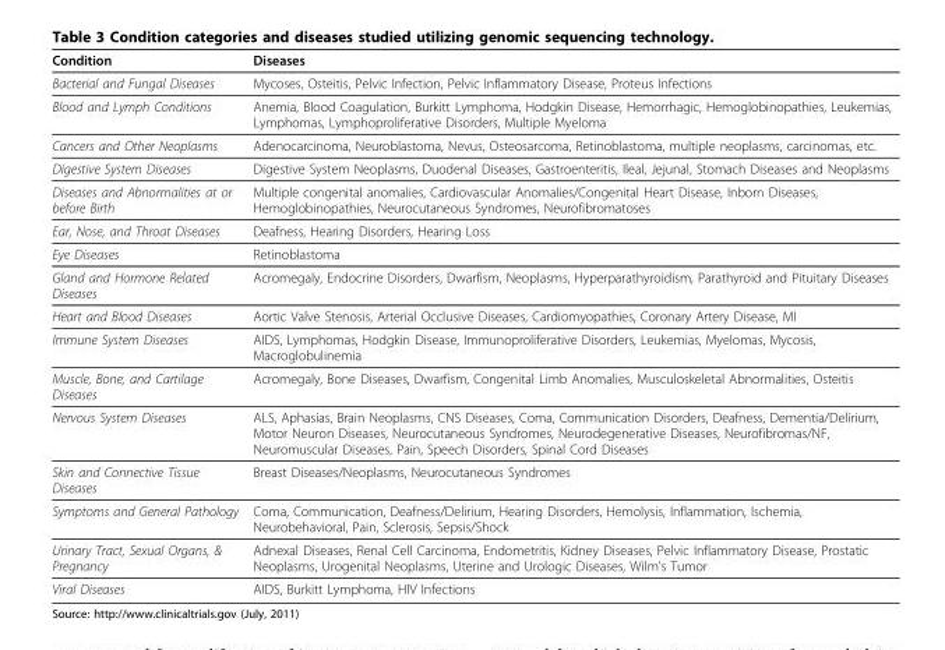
<table><thead><tr><td>Condition</td><td>Diseases</td></tr></thead><tbody><tr><td>Bacterial and Fungal Diseases</td><td>Mycoses, Osteitis, Pelvic Infection, Pelvic Inflammatory Disease, Proteus Infections</td></tr><tr><td>Blood and Lymph Conditions</td><td>Anemia, Blood Coagulation, Burkitt Lymphoma, Hodgkin Disease, Hemorrhagic, Hemoglobinopathies, Leukemias, Lymphomas, Lymphoproliferative Disorders, Multiple Myeloma</td></tr><tr><td>Cancers and Other Neoplasms</td><td>Adenocarcinoma, Neuroblastoma, Nevus, Osteosarcoma, Retinoblastoma, multiple neoplasms, carcinomas, etc.</td></tr><tr><td>Digestive System Diseases</td><td>Digestive System Neoplasms, Duodenal Diseases, Gastroenteritis, Ileal, Jejunal, Stomach Diseases and Neoplasms</td></tr><tr><td>Diseases and Abnormalities at or before Birth</td><td>Multiple congenital anomalies, Cardiovascular Anomalies/Congenital Heart Disease, Inborn Diseases, Hemoglobinopathies, Neurocutaneous Syndromes, Neurofibromatoses</td></tr><tr><td>Ear, Nose, and Throat Diseases</td><td>Deafness, Hearing Disorders, Hearing Loss</td></tr><tr><td>Eye Diseases</td><td>Retinoblastoma</td></tr><tr><td>Gland and Hormone Related Diseases</td><td>Acromegaly, Endocrine Disorders, Dwarfism, Neoplasms, Hyperparathyroidism, Parathyroid and Pituitary Diseases</td></tr><tr><td>Heart and Blood Diseases</td><td>Aortic Valve Stenosis, Arterial Occlusive Diseases, Cardiomyopathies, Coronary Artery Disease, MI</td></tr><tr><td>Immune System Diseases</td><td>AIDS, Lymphomas, Hodgkin Disease, Immunoproliferative Disorders, Leukemias, Myelomas, Mycosis, Macroglobulinemia</td></tr><tr><td>Muscle, Bone, and Cartilage Diseases</td><td>Acromegaly, Bone Diseases, Dwarfism, Congenital Limb Anomalies, Musculoskeletal Abnormalities, Osteitis</td></tr><tr><td>Nervous System Diseases</td><td>ALS, Aphasias, Brain Neoplasms, CNS Diseases, Coma, Communication Disorders, Deafness, Dementia/Delirium, Motor Neuron Diseases, Neurocutaneous Syndromes, Neurodegenerative Diseases, Neurofibromas/NF, Neuromuscular Diseases, Pain, Speech Disorders, Spinal Cord Diseases</td></tr><tr><td>Skin and Connective Tissue Diseases</td><td>Breast Diseases/Neoplasms, Neurocutaneous Syndromes</td></tr><tr><td>Symptoms and General Pathology</td><td>Coma, Communication, Deafness/Delirium, Hearing Disorders, Hemolysis, Inflammation, Ischemia, Neurobehavioral, Pain, Sclerosis, Sepsis/Shock</td></tr><tr><td>Urinary Tract, Sexual Organs, &amp; Pregnancy</td><td>Adnexal Diseases, Renal Cell Carcinoma, Endometritis, Kidney Diseases, Pelvic Inflammatory Disease, Prostatic Neoplasms, Urogenital Neoplasms, Uterine and Urologic Diseases, Wilm’s Tumor</td></tr><tr><td>Viral Diseases</td><td>AIDS, Burkitt Lymphoma, HIV Infections</td></tr></tbody></table>